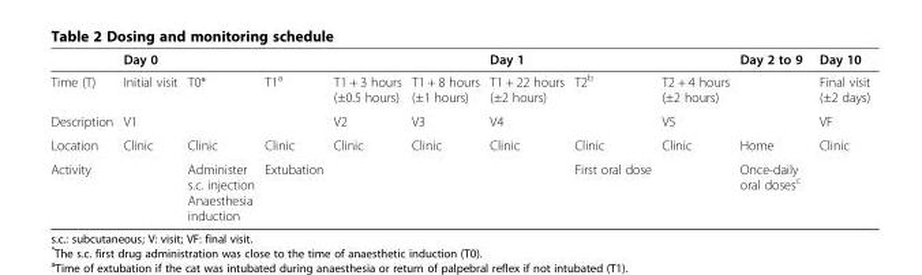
<table><thead><tr><td rowspan="2">Time (T)</td><td colspan="5">Day 0</td><td colspan="3">Day 1</td><td rowspan="2">Day 2 to 9</td><td rowspan="2">Day 10 Final visit (±2 days)</td></tr><tr><td>Initial visit</td><td>T0*</td><td>T1<sup>a</sup></td><td>T1 + 3 hours (±0.5 hours)</td><td>T1 + 8 hours (±1 hours)</td><td>T1 + 22 hours (±2 hours)</td><td>T2<sup>b</sup></td><td>T2 + 4 hours (±2 hours)</td></tr></thead><tbody><tr><td>Description</td><td>V1</td><td></td><td></td><td>V2</td><td>V3</td><td>V4</td><td></td><td>V5</td><td></td><td>VF</td></tr><tr><td>Location</td><td>Clinic</td><td>Clinic</td><td>Clinic</td><td>Clinic</td><td>Clinic</td><td>Clinic</td><td>Clinic</td><td>Clinic</td><td>Home</td><td>Clinic</td></tr><tr><td>Activity</td><td></td><td>Administer s.c. injection Anaesthesia induction</td><td>Extubation</td><td></td><td></td><td></td><td>First oral dose</td><td></td><td>Once-daily oral doses<sup>c</sup></td><td></td></tr></tbody></table>